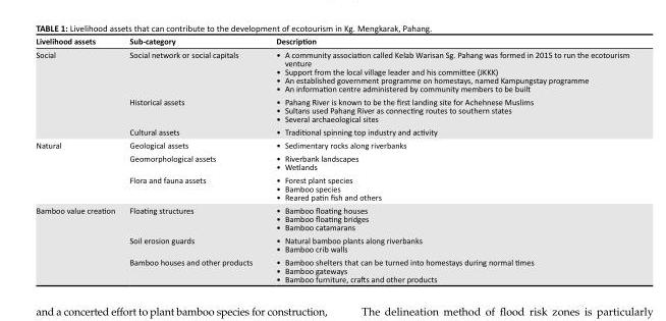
<table><thead><tr><td>Livelihood assets</td><td>Sub-category</td><td>Description</td></tr></thead><tbody><tr><td rowspan="3">Social</td><td>Social network or social capitals</td><td>• A community association called Kelab Warisan Sg. Pahang was formed in 2015 to run the ecotourism venture • Support from the local village leader and his committee (JKKK) • An established government programme on homestays, named Kampungstay programme • An information centre administered by community members to be built</td></tr><tr><td>Historical assets</td><td>• Pahang River is known to be the first landing site for Achehnese Muslims • Sultans used Pahang River as connecting routes to southern states • Several archaeological sites</td></tr><tr><td>Cultural assets</td><td>• Traditional spinning top industry and activity</td></tr><tr><td rowspan="3">Natural</td><td>Geological assets</td><td>• Sedimentary rocks along riverbanks</td></tr><tr><td>Geomorphological assets</td><td>• Riverbank landscapes • Wetlands</td></tr><tr><td>Flora and fauna assets</td><td>• Forest plant species • Bamboo species • Reared patin fish and others</td></tr><tr><td rowspan="3">Bamboo value creation</td><td>Floating structures</td><td>• Bamboo floating houses • Bamboo floating bridges • Bamboo catamarans</td></tr><tr><td>Soil erosion guards</td><td>• Natural bamboo plants along riverbanks • Bamboo crib walls</td></tr><tr><td>Bamboo houses and other products</td><td>• Bamboo shelters that can be turned into homestays during normal times • Bamboo gateways • Bamboo furniture, crafts and other products</td></tr></tbody></table>